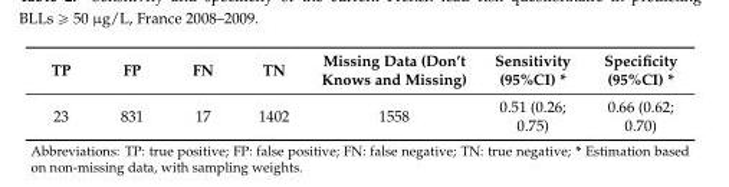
<table><thead><tr><td>TP</td><td>FP</td><td>FN</td><td>TN</td><td>Missing Data (Don’t Knows and Missing)</td><td>Sensitivity (95%CI) *</td><td>Specificity (95%CI) *</td></tr></thead><tbody><tr><td>23</td><td>831</td><td>17</td><td>1402</td><td>1558</td><td>0.51 (0.26; 0.75)</td><td>0.66 (0.62; 0.70)</td></tr></tbody></table>